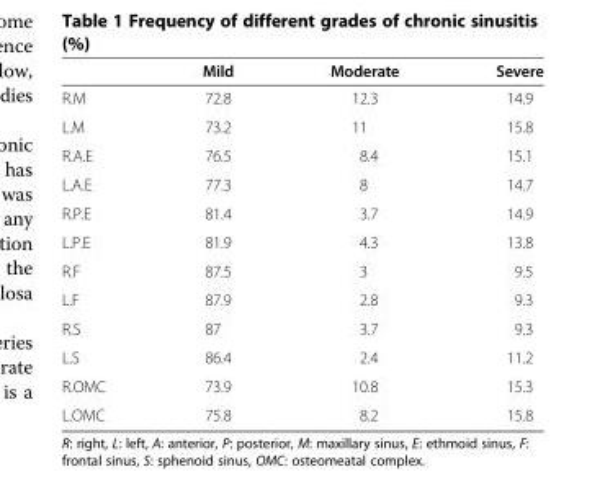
<table><thead><tr><td></td><td>Mild</td><td>Moderate</td><td>Severe</td></tr></thead><tbody><tr><td>R.M</td><td>72.8</td><td>12.3</td><td>14.9</td></tr><tr><td>L.M</td><td>73.2</td><td>11</td><td>15.8</td></tr><tr><td>R.A.E</td><td>76.5</td><td>8.4</td><td>15.1</td></tr><tr><td>L.A.E</td><td>77.3</td><td>8</td><td>14.7</td></tr><tr><td>R.P.E</td><td>81.4</td><td>3.7</td><td>14.9</td></tr><tr><td>L.P.E</td><td>81.9</td><td>4.3</td><td>13.8</td></tr><tr><td>R.F</td><td>87.5</td><td>3</td><td>9.5</td></tr><tr><td>L.F</td><td>87.9</td><td>2.8</td><td>9.3</td></tr><tr><td>R.S</td><td>87</td><td>3.7</td><td>9.3</td></tr><tr><td>L.S</td><td>86.4</td><td>2.4</td><td>11.2</td></tr><tr><td>R.OMC</td><td>73.9</td><td>10.8</td><td>15.3</td></tr><tr><td>L.OMC</td><td>75.8</td><td>8.2</td><td>15.8</td></tr></tbody></table>